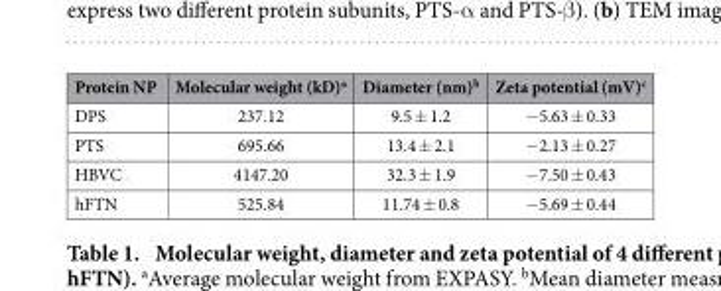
<table><thead><tr><td>Protein NP</td><td>Molecular weight (kD)<sup>a</sup></td><td>Diameter (nm)<sup>b</sup></td><td>Zeta potential (mV)<sup>c</sup></td></tr></thead><tbody><tr><td>DPS</td><td>237.12</td><td>9.5 ± 1.2</td><td>− 5.63 ± 0.33</td></tr><tr><td>PTS</td><td>695.66</td><td>13.4 ± 2.1</td><td>− 2.13 ± 0.27</td></tr><tr><td>HBVC</td><td>4147.20</td><td>32.3 ± 1.9</td><td>− 7.50 ± 0.43</td></tr><tr><td>hFTN</td><td>525.84</td><td>11.74 ± 0.8</td><td>− 5.69 ± 0.44</td></tr></tbody></table>